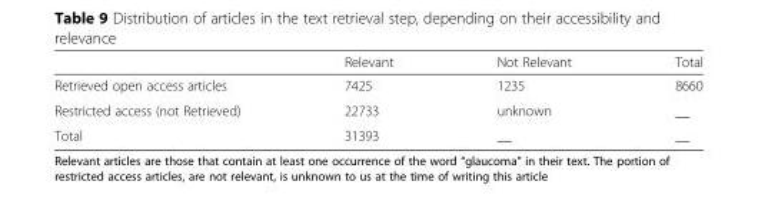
<table><thead><tr><td></td><td>Relevant</td><td>Not Relevant</td><td>Total</td></tr></thead><tbody><tr><td>Retrieved open access articles</td><td>7425</td><td>1235</td><td>8660</td></tr><tr><td>Restricted access (not Retrieved)</td><td>22733</td><td>unknown</td><td>__</td></tr><tr><td>Total</td><td>31393</td><td>__</td><td>__</td></tr></tbody></table>